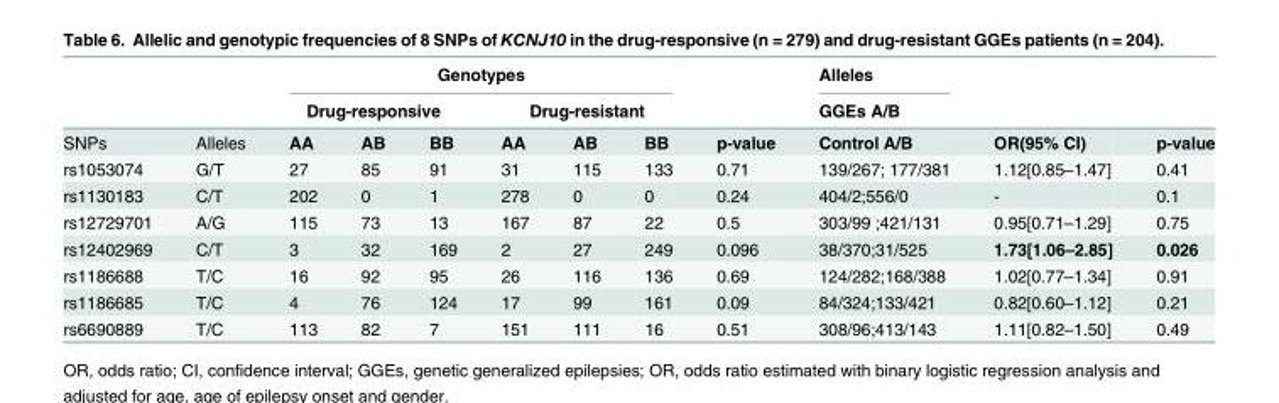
<table><thead><tr><td rowspan="3">SNPs</td><td rowspan="3">Alleles</td><td colspan="6">Genotypes</td><td rowspan="3">p-value</td><td rowspan="3">Alleles GGEs A/B Control A/B</td><td rowspan="3">OR(95% CI)</td><td rowspan="3">p-value</td></tr><tr><td colspan="3">Drug-responsive</td><td colspan="3">Drug-resistant</td></tr><tr><td>AA</td><td>AB</td><td>BB</td><td>AA</td><td>AB</td><td>BB</td></tr></thead><tbody><tr><td>rs1053074</td><td>G/T</td><td>27</td><td>85</td><td>91</td><td>31</td><td>115</td><td>133</td><td>0.71</td><td>139/267; 177/381</td><td>1.12[0.85–1.47]</td><td>0.41</td></tr><tr><td>rs1130183</td><td>C/T</td><td>202</td><td>0</td><td>1</td><td>278</td><td>0</td><td>0</td><td>0.24</td><td>404/2;556/0</td><td>-</td><td>0.1</td></tr><tr><td>rs12729701</td><td>A/G</td><td>115</td><td>73</td><td>13</td><td>167</td><td>87</td><td>22</td><td>0.5</td><td>303/99 ;421/131</td><td>0.95[0.71–1.29]</td><td>0.75</td></tr><tr><td>rs12402969</td><td>C/T</td><td>3</td><td>32</td><td>169</td><td>2</td><td>27</td><td>249</td><td>0.096</td><td>38/370;31/525</td><td>1.73[1.06–2.85]</td><td>0.026</td></tr><tr><td>rs1186688</td><td>T/C</td><td>16</td><td>92</td><td>95</td><td>26</td><td>116</td><td>136</td><td>0.69</td><td>124/282;168/388</td><td>1.02[0.77–1.34]</td><td>0.91</td></tr><tr><td>rs1186685</td><td>T/C</td><td>4</td><td>76</td><td>124</td><td>17</td><td>99</td><td>161</td><td>0.09</td><td>84/324;133/421</td><td>0.82[0.60–1.12]</td><td>0.21</td></tr><tr><td>rs6690889</td><td>T/C</td><td>113</td><td>82</td><td>7</td><td>151</td><td>111</td><td>16</td><td>0.51</td><td>308/96;413/143</td><td>1.11[0.82–1.50]</td><td>0.49</td></tr></tbody></table>